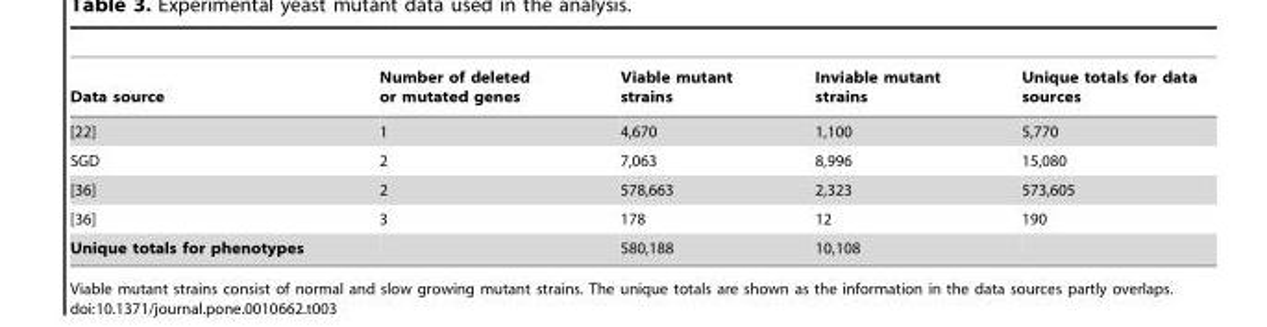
<table><thead><tr><td>Data source</td><td>Number of deleted or mutated genes</td><td>Viable mutant strains</td><td>Inviable mutant strains</td><td>Unique totals for data sources</td></tr></thead><tbody><tr><td>[22]</td><td>1</td><td>4,670</td><td>1,100</td><td>5,770</td></tr><tr><td>SGD</td><td>2</td><td>7,063</td><td>8,996</td><td>15,080</td></tr><tr><td>[36]</td><td>2</td><td>578,663</td><td>2,323</td><td>573,605</td></tr><tr><td>[36]</td><td>3</td><td>178</td><td>12</td><td>190</td></tr><tr><td>Unique totals for phenotypes</td><td></td><td>580,188</td><td>10,108</td><td></td></tr></tbody></table>